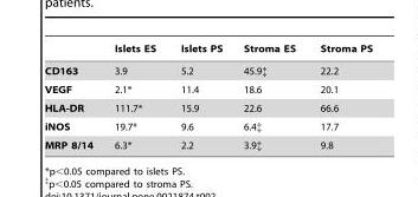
<table><thead><tr><td></td><td>Islets ES</td><td>Islets PS</td><td>Stroma ES</td><td>Stroma PS</td></tr></thead><tbody><tr><td>CD163</td><td>3.9</td><td>5.2</td><td>45.9‡</td><td>22.2</td></tr><tr><td>VEGF</td><td>2.1*</td><td>11.4</td><td>18.6</td><td>20.1</td></tr><tr><td>HLA-DR</td><td>111.7*</td><td>15.9</td><td>22.6</td><td>66.6</td></tr><tr><td>iNOS</td><td>19.7*</td><td>9.6</td><td>6.4‡</td><td>17.7</td></tr><tr><td>MRP 8/14</td><td>6.3*</td><td>2.2</td><td>3.9‡</td><td>9.8</td></tr></tbody></table>